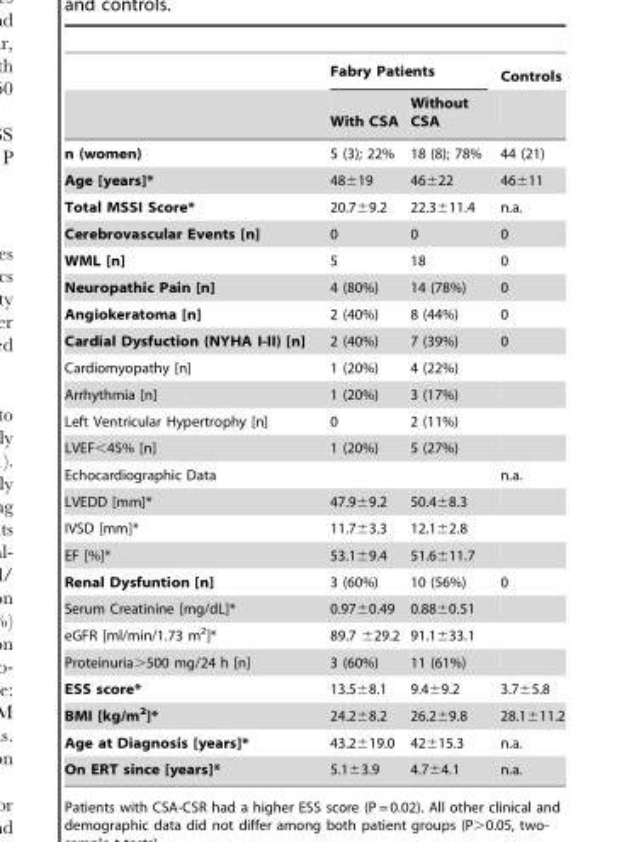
<table><thead><tr><td rowspan="2"></td><td colspan="2">Fabry Patients</td><td rowspan="2">Controls</td></tr><tr><td>With CSA</td><td>Without CSA</td></tr></thead><tbody><tr><td>n (women)</td><td>5 (3); 22%</td><td>18 (8); 78%</td><td>44 (21)</td></tr><tr><td>Age [years]*</td><td>48±19</td><td>46±22</td><td>46±11</td></tr><tr><td>Total MSSI Score*</td><td>20.7±9.2</td><td>22.3±11.4</td><td>n.a.</td></tr><tr><td>Cerebrovascular Events [n]</td><td>0</td><td>0</td><td>0</td></tr><tr><td>WML [n]</td><td>5</td><td>18</td><td>0</td></tr><tr><td>Neuropathic Pain [n]</td><td>4 (80%)</td><td>14 (78%)</td><td>0</td></tr><tr><td>Angiokeratoma [n]</td><td>2 (40%)</td><td>8 (44%)</td><td>0</td></tr><tr><td>Cardial Dysfuction (NYHA I-II) [n]</td><td>2 (40%)</td><td>7 (39%)</td><td>0</td></tr><tr><td>Cardiomyopathy [n]</td><td>1 (20%)</td><td>4 (22%)</td><td></td></tr><tr><td>Arrhythmia [n]</td><td>1 (20%)</td><td>3 (17%)</td><td></td></tr><tr><td>Left Ventricular Hypertrophy [n]</td><td>0</td><td>2 (11%)</td><td></td></tr><tr><td>LVEF&lt;45% [n]</td><td>1 (20%)</td><td>5 (27%)</td><td></td></tr><tr><td>Echocardiographic Data</td><td></td><td></td><td>n.a.</td></tr><tr><td>LVEDD [mm]*</td><td>47.9±9.2</td><td>50.4±8.3</td><td></td></tr><tr><td>IVSD [mm]*</td><td>11.7±3.3</td><td>12.1±2.8</td><td></td></tr><tr><td>EF [%]*</td><td>53.1±9.4</td><td>51.6±11.7</td><td></td></tr><tr><td>Renal Dysfuntion [n]</td><td>3 (60%)</td><td>10 (56%)</td><td>0</td></tr><tr><td>Serum Creatinine [mg/dL]*</td><td>0.97±0.49</td><td>0.88±0.51</td><td></td></tr><tr><td>eGFR [ml/min/1.73 m<sup>2</sup>]*</td><td>89.7 ±29.2</td><td>91.1±33.1</td><td></td></tr><tr><td>Proteinuria&gt;500 mg/24 h [n]</td><td>3 (60%)</td><td>11 (61%)</td><td></td></tr><tr><td>ESS score*</td><td>13.5±8.1</td><td>9.4±9.2</td><td>3.7±5.8</td></tr><tr><td>BMI [kg/m<sup>2</sup>]*</td><td>24.2±8.2</td><td>26.2±9.8</td><td>28.1±11.2</td></tr><tr><td>Age at Diagnosis [years]*</td><td>43.2±19.0</td><td>42±15.3</td><td>n.a.</td></tr><tr><td>On ERT since [years]*</td><td>5.1±3.9</td><td>4.7±4.1</td><td>n.a.</td></tr></tbody></table>